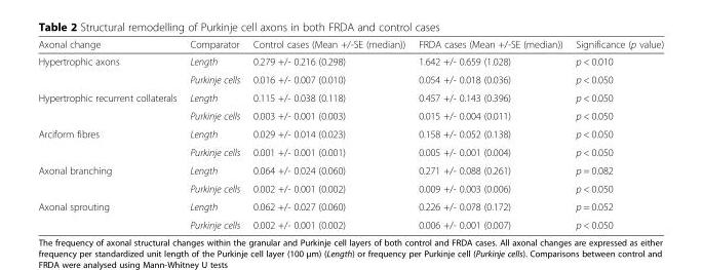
<table><thead><tr><td>Axonal change</td><td>Comparator</td><td>Control cases (Mean +/-SE (median))</td><td>FRDA cases (Mean +/-SE (median))</td><td>Significance (p value)</td></tr></thead><tbody><tr><td rowspan="2">Hypertrophic axons</td><td>Length</td><td>0.279 +/- 0.216 (0.298)</td><td>1.642 +/- 0.659 (1.028)</td><td>p &lt; 0.010</td></tr><tr><td>Purkinje cells</td><td>0.016 +/- 0.007 (0.010)</td><td>0.054 +/- 0.018 (0.036)</td><td>p &lt; 0.050</td></tr><tr><td rowspan="2">Hypertrophic recurrent collaterals</td><td>Length</td><td>0.115 +/- 0.038 (0.118)</td><td>0.457 +/- 0.143 (0.396)</td><td>p &lt; 0.050</td></tr><tr><td>Purkinje cells</td><td>0.003 +/- 0.001 (0.003)</td><td>0.015 +/- 0.004 (0.011)</td><td>p &lt; 0.050</td></tr><tr><td rowspan="2">Arciform fibres</td><td>Length</td><td>0.029 +/- 0.014 (0.023)</td><td>0.158 +/- 0.052 (0.138)</td><td>p &lt; 0.050</td></tr><tr><td>Purkinje cells</td><td>0.001 +/- 0.001 (0.001)</td><td>0.005 +/- 0.001 (0.004)</td><td>p &lt; 0.050</td></tr><tr><td rowspan="2">Axonal branching</td><td>Length</td><td>0.064 +/- 0.024 (0.060)</td><td>0.271 +/- 0.088 (0.261)</td><td>p = 0.082</td></tr><tr><td>Purkinje cells</td><td>0.002 +/- 0.001 (0.002)</td><td>0.009 +/- 0.003 (0.006)</td><td>p &lt; 0.050</td></tr><tr><td rowspan="2">Axonal sprouting</td><td>Length</td><td>0.062 +/- 0.027 (0.060)</td><td>0.226 +/- 0.078 (0.172)</td><td>p = 0.052</td></tr><tr><td>Purkinje cells</td><td>0.002 +/- 0.001 (0.002)</td><td>0.006 +/- 0.001 (0.007)</td><td>p &lt; 0.050</td></tr></tbody></table>